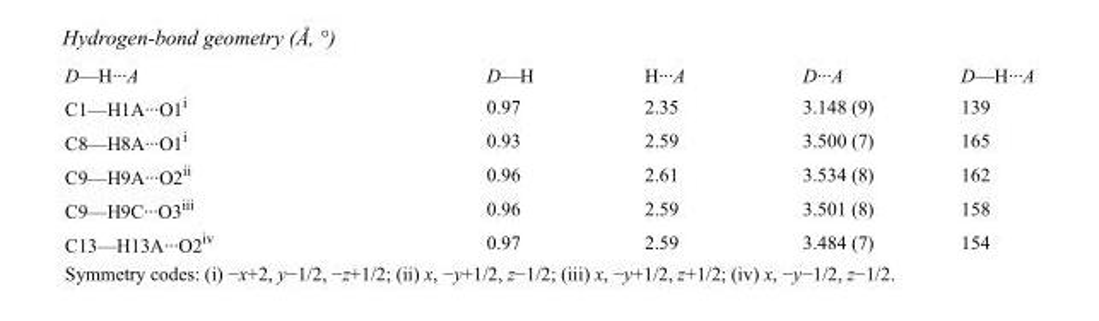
<table><tbody><tr><td>D—H···A</td><td>D—H</td><td>H···A</td><td>D···A</td><td>D—H···A</td></tr><tr><td>C1—H1A···O1<sup>i</sup></td><td>0.97</td><td>2.35</td><td>3.148 (9)</td><td>139</td></tr><tr><td>C8—H8A···O1<sup>i</sup></td><td>0.93</td><td>2.59</td><td>3.500 (7)</td><td>165</td></tr><tr><td>C9—H9A···O2<sup>ii</sup></td><td>0.96</td><td>2.61</td><td>3.534 (8)</td><td>162</td></tr><tr><td>C9—H9C···O3<sup>iii</sup></td><td>0.96</td><td>2.59</td><td>3.501 (8)</td><td>158</td></tr><tr><td>C13—H13A···O2<sup>iv</sup></td><td>0.97</td><td>2.59</td><td>3.484 (7)</td><td>154</td></tr></tbody></table>